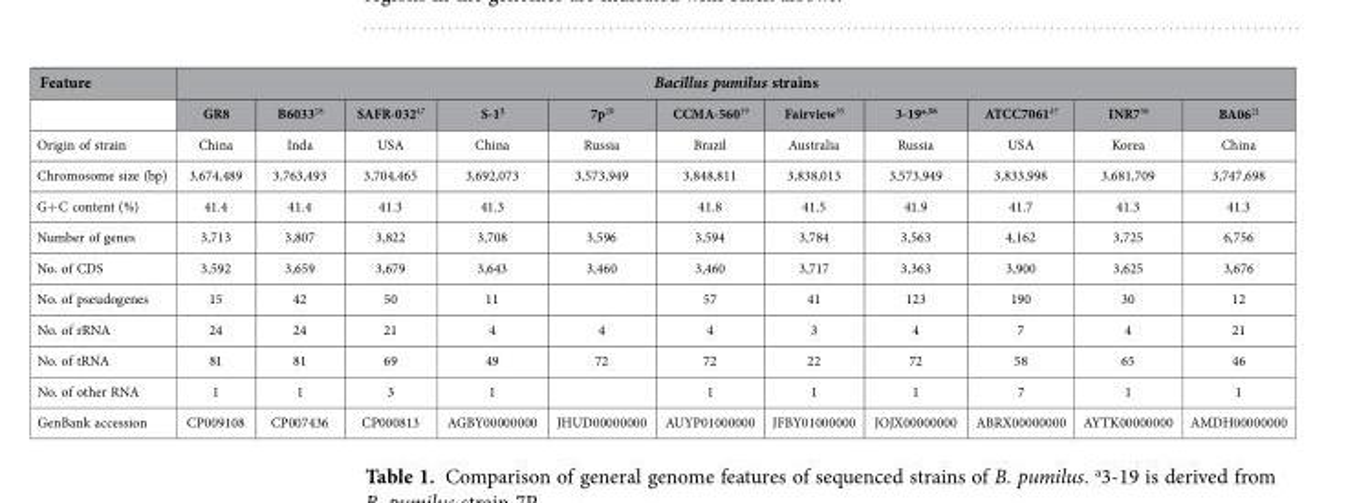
<table><thead><tr><td rowspan="2">Feature</td><td colspan="11">Bacillus pumilus strains</td></tr><tr><td>GR8</td><td>B6033<sup>18</sup></td><td>SAFR-032<sup>47</sup></td><td>S-1<sup>2</sup></td><td>7p<sup>20</sup></td><td>CCMA-560<sup>19</sup></td><td>Fairview<sup>55</sup></td><td>3-19<sup>a,56</sup></td><td>ATCC7061<sup>47</sup></td><td>INR7<sup>56</sup></td><td>BA0621</td></tr></thead><tbody><tr><td>Origin of strain</td><td>China</td><td>Inda</td><td>USA</td><td>China</td><td>Russia</td><td>Brazil</td><td>Australia</td><td>Russia</td><td>USA</td><td>Korea</td><td>China</td></tr><tr><td>Chromosome size (bp)</td><td>3,674,489</td><td>3,763,493</td><td>3,704,465</td><td>3,692,073</td><td>3,573,949</td><td>3,848,811</td><td>3,838,013</td><td>3,573,949</td><td>3,833,998</td><td>3,681,709</td><td>3,747,698</td></tr><tr><td>G+ C content (%)</td><td>41.4</td><td>41.4</td><td>41.3</td><td>41.3</td><td></td><td>41.8</td><td>41.5</td><td>41.9</td><td>41.7</td><td>41.3</td><td>41.3</td></tr><tr><td>Number of genes</td><td>3,713</td><td>3,807</td><td>3,822</td><td>3,708</td><td>3,596</td><td>3,594</td><td>3,784</td><td>3,563</td><td>4,162</td><td>3,725</td><td>6,756</td></tr><tr><td>No. of CDS</td><td>3,592</td><td>3,659</td><td>3,679</td><td>3,643</td><td>3,460</td><td>3,460</td><td>3,717</td><td>3,363</td><td>3,900</td><td>3,625</td><td>3,676</td></tr><tr><td>No. of pseudogenes</td><td>15</td><td>42</td><td>50</td><td>11</td><td></td><td>57</td><td>41</td><td>123</td><td>190</td><td>30</td><td>12</td></tr><tr><td>No. of rRNA</td><td>24</td><td>24</td><td>21</td><td>4</td><td>4</td><td>4</td><td>3</td><td>4</td><td>7</td><td>4</td><td>21</td></tr><tr><td>No. of tRNA</td><td>81</td><td>81</td><td>69</td><td>49</td><td>72</td><td>72</td><td>22</td><td>72</td><td>58</td><td>65</td><td>46</td></tr><tr><td>No. of other RNA</td><td>1</td><td>1</td><td>3</td><td>1</td><td></td><td>1</td><td>1</td><td>1</td><td>7</td><td>1</td><td>1</td></tr><tr><td>GenBank accession</td><td>CP009108</td><td>CP007436</td><td>CP000813</td><td>AGBY00000000</td><td>JHUD00000000</td><td>AUYP01000000</td><td>JFBY01000000</td><td>JOJX00000000</td><td>ABRX00000000</td><td>AYTK00000000</td><td>AMDH00000000</td></tr></tbody></table>